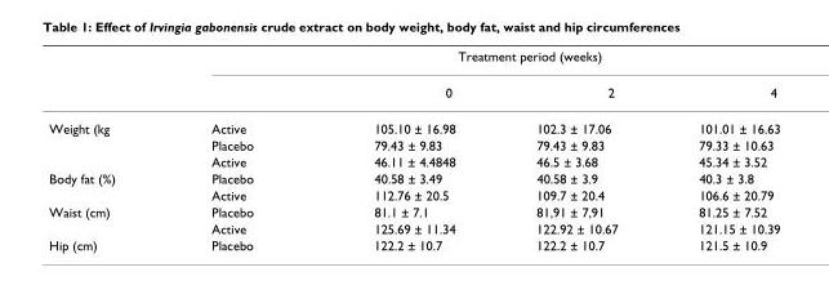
<table><thead><tr><td rowspan="2"></td><td colspan="4">Treatment period (weeks)</td></tr><tr><td></td><td>0</td><td>2</td><td>4</td></tr></thead><tbody><tr><td rowspan="3">Weight (kg</td><td>Active</td><td>105.10 ± 16.98</td><td>102.3 ± 17.06</td><td>101.01 ± 16.63</td></tr><tr><td>Placebo</td><td>79.43 ± 9.83</td><td>79.43 ± 9.83</td><td>79.33 ± 10.63</td></tr><tr><td>Active</td><td>46.11 ± 4.4848</td><td>46.5 ± 3.68</td><td>45.34 ± 3.52</td></tr><tr><td rowspan="2">Body fat (%)</td><td>Placebo</td><td>40.58 ± 3.49</td><td>40.58 ± 3.9</td><td>40.3 ± 3.8</td></tr><tr><td>Active</td><td>112.76 ± 20.5</td><td>109.7 ± 20.4</td><td>106.6 ± 20.79</td></tr><tr><td rowspan="2">Waist (cm)</td><td>Placebo</td><td>81.1 ± 7.1</td><td>81,91 ± 7,91</td><td>81.25 ± 7.52</td></tr><tr><td>Active</td><td>125.69 ± 11.34</td><td>122.92 ± 10.67</td><td>121.15 ± 10.39</td></tr><tr><td>Hip (cm)</td><td>Placebo</td><td>122.2 ± 10.7</td><td>122.2 ± 10.7</td><td>121.5 ± 10.9</td></tr></tbody></table>